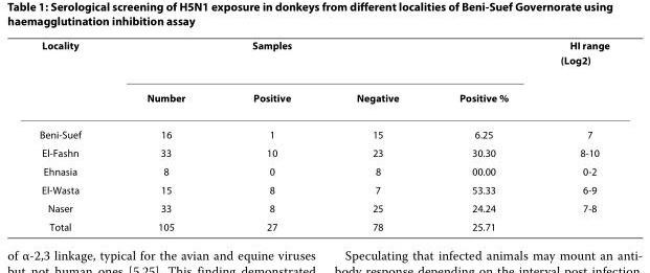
<table><thead><tr><td rowspan="2">Locality</td><td colspan="3">Samples</td><td rowspan="2">Positive %</td><td rowspan="2">HI range (Log<sub>2</sub>)</td></tr><tr><td>Number</td><td>Positive</td><td>Negative</td></tr></thead><tbody><tr><td>Beni-Suef</td><td>16</td><td>1</td><td>15</td><td>6.25</td><td>7</td></tr><tr><td>El-Fashn</td><td>33</td><td>10</td><td>23</td><td>30.30</td><td>8-10</td></tr><tr><td>Ehnasia</td><td>8</td><td>0</td><td>8</td><td>00.00</td><td>0-2</td></tr><tr><td>El-Wasta</td><td>15</td><td>8</td><td>7</td><td>53.33</td><td>6-9</td></tr><tr><td>Naser</td><td>33</td><td>8</td><td>25</td><td>24.24</td><td>7-8</td></tr><tr><td>Total</td><td>105</td><td>27</td><td>78</td><td>25.71</td><td></td></tr></tbody></table>